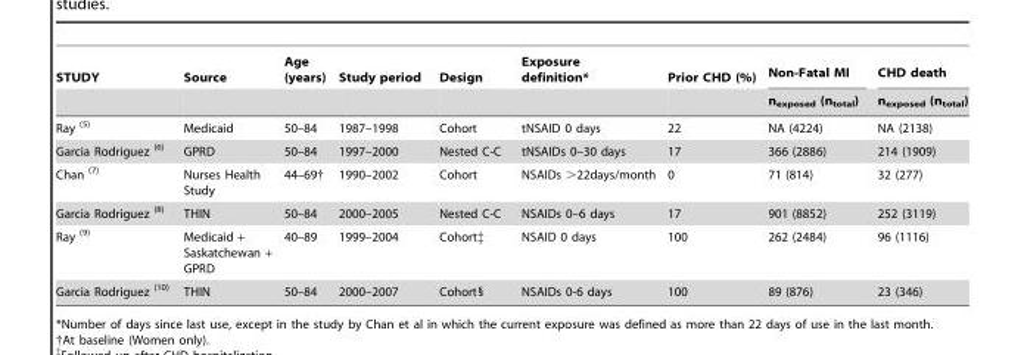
<table><thead><tr><td rowspan="2">STUDY</td><td rowspan="2">Source</td><td rowspan="2">Age (years)</td><td rowspan="2">Study period</td><td rowspan="2">Design</td><td rowspan="2">Exposure definition*</td><td rowspan="2">Prior CHD (%)</td><td rowspan="2">Non-Fatal MI n<sub>exposed</sub> (n<sub>total</sub>)</td><td rowspan="2">CHD death n<sub>exposed</sub> (n<sub>total</sub>)</td></tr><tr></tr></thead><tbody><tr><td>Ray <sup>(5)</sup></td><td>Medicaid</td><td>50–84</td><td>1987–1998</td><td>Cohort</td><td>tNSAID 0 days</td><td>22</td><td>NA (4224)</td><td>NA (2138)</td></tr><tr><td>Garcia Rodriguez <sup>(6)</sup></td><td>GPRD</td><td>50–84</td><td>1997–2000</td><td>Nested C-C</td><td>tNSAIDs 0–30 days</td><td>17</td><td>366 (2886)</td><td>214 (1909)</td></tr><tr><td>Chan <sup>(7)</sup></td><td>Nurses Health Study</td><td>44–69†</td><td>1990–2002</td><td>Cohort</td><td>NSAIDs &gt;22days/month</td><td>0</td><td>71 (814)</td><td>32 (277)</td></tr><tr><td>Garcia Rodriguez <sup>(8)</sup></td><td>THIN</td><td>50–84</td><td>2000–2005</td><td>Nested C-C</td><td>NSAIDs 0–6 days</td><td>17</td><td>901 (8852)</td><td>252 (3119)</td></tr><tr><td>Ray <sup>(9)</sup></td><td>Medicaid + Saskatchewan + GPRD</td><td>40–89</td><td>1999–2004</td><td>Cohort‡</td><td>NSAID 0 days</td><td>100</td><td>262 (2484)</td><td>96 (1116)</td></tr><tr><td>Garcia Rodriguez <sup>(10)</sup></td><td>THIN</td><td>50–84</td><td>2000–2007</td><td>Cohort§</td><td>NSAIDs 0-6 days</td><td>100</td><td>89 (876)</td><td>23 (346)</td></tr></tbody></table>